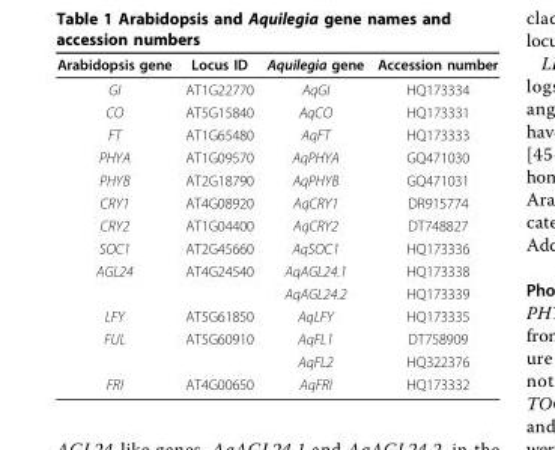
<table><thead><tr><td>Arabidopsis gene</td><td>Locus ID</td><td>Aquilegia gene</td><td>Accession number</td></tr></thead><tbody><tr><td>GI</td><td>AT1G22770</td><td>AqGI</td><td>HQ173334</td></tr><tr><td>CO</td><td>AT5G15840</td><td>AqCO</td><td>HQ173331</td></tr><tr><td>FT</td><td>AT1G65480</td><td>AqFT</td><td>HQ173333</td></tr><tr><td>PHYA</td><td>AT1G09570</td><td>AqPHYA</td><td>GQ471030</td></tr><tr><td>PHYB</td><td>AT2G18790</td><td>AqPHYB</td><td>GQ471031</td></tr><tr><td>CRY1</td><td>AT4G08920</td><td>AqCRY1</td><td>DR915774</td></tr><tr><td>CRY2</td><td>AT1G04400</td><td>AqCRY2</td><td>DT748827</td></tr><tr><td>SOC1</td><td>AT2G45660</td><td>AqSOC1</td><td>HQ173336</td></tr><tr><td rowspan="2">AGL24</td><td>AT4G24540</td><td>AqAGL24.1</td><td>HQ173338</td></tr><tr><td></td><td>AqAGL24.2</td><td>HQ173339</td></tr><tr><td>LFY</td><td>AT5G61850</td><td>AqLFY</td><td>HQ173335</td></tr><tr><td rowspan="2">FUL</td><td>AT5G60910</td><td>AqFL1</td><td>DT758909</td></tr><tr><td></td><td>AqFL2</td><td>HQ322376</td></tr><tr><td>FRI</td><td>AT4G00650</td><td>AqFRI</td><td>HQ173332</td></tr></tbody></table>